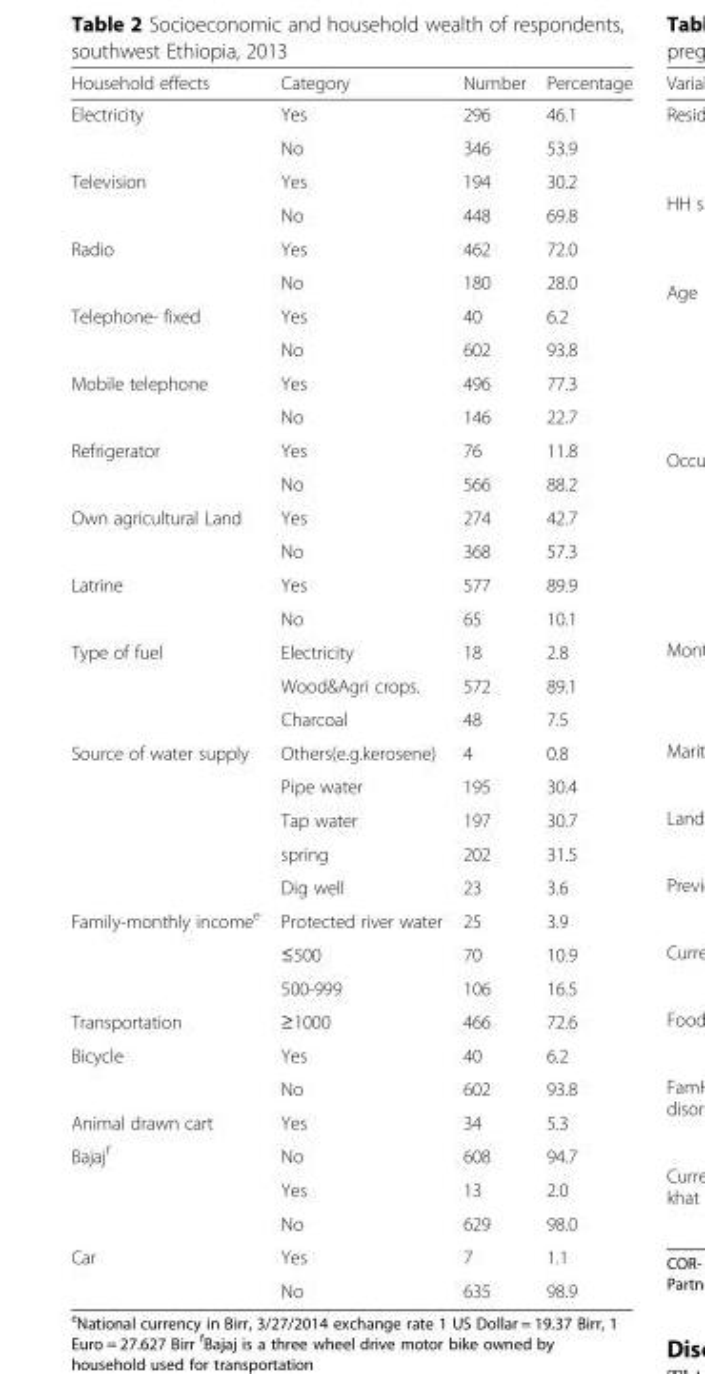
<table><thead><tr><td>Household effects</td><td>Category</td><td>Number</td><td>Percentage</td></tr></thead><tbody><tr><td rowspan="2">Electricity</td><td>Yes</td><td>296</td><td>46.1</td></tr><tr><td>No</td><td>346</td><td>53.9</td></tr><tr><td rowspan="2">Television</td><td>Yes</td><td>194</td><td>30.2</td></tr><tr><td>No</td><td>448</td><td>69.8</td></tr><tr><td rowspan="2">Radio</td><td>Yes</td><td>462</td><td>72.0</td></tr><tr><td>No</td><td>180</td><td>28.0</td></tr><tr><td rowspan="2">Telephone- fixed</td><td>Yes</td><td>40</td><td>6.2</td></tr><tr><td>No</td><td>602</td><td>93.8</td></tr><tr><td rowspan="2">Mobile telephone</td><td>Yes</td><td>496</td><td>77.3</td></tr><tr><td>No</td><td>146</td><td>22.7</td></tr><tr><td rowspan="2">Refrigerator</td><td>Yes</td><td>76</td><td>11.8</td></tr><tr><td>No</td><td>566</td><td>88.2</td></tr><tr><td rowspan="2">Own agricultural Land</td><td>Yes</td><td>274</td><td>42.7</td></tr><tr><td>No</td><td>368</td><td>57.3</td></tr><tr><td rowspan="2">Latrine</td><td>Yes</td><td>577</td><td>89.9</td></tr><tr><td>No</td><td>65</td><td>10.1</td></tr><tr><td rowspan="3">Type of fuel</td><td>Electricity</td><td>18</td><td>2.8</td></tr><tr><td>Wood&amp;Agri crops.</td><td>572</td><td>89.1</td></tr><tr><td>Charcoal</td><td>48</td><td>7.5</td></tr><tr><td rowspan="5">Source of water supply</td><td>Others(e.g.kerosene)</td><td>4</td><td>0.8</td></tr><tr><td>Pipe water</td><td>195</td><td>30.4</td></tr><tr><td>Tap water</td><td>197</td><td>30.7</td></tr><tr><td>spring</td><td>202</td><td>31.5</td></tr><tr><td>Dig well</td><td>23</td><td>3.6</td></tr><tr><td rowspan="3">Family-monthly income<sup>e</sup></td><td>Protected river water</td><td>25</td><td>3.9</td></tr><tr><td>≤500</td><td>70</td><td>10.9</td></tr><tr><td>500-999</td><td>106</td><td>16.5</td></tr><tr><td>Transportation</td><td>≥1000</td><td>466</td><td>72.6</td></tr><tr><td rowspan="2">Bicycle</td><td>Yes</td><td>40</td><td>6.2</td></tr><tr><td>No</td><td>602</td><td>93.8</td></tr><tr><td>Animal drawn cart</td><td>Yes</td><td>34</td><td>5.3</td></tr><tr><td rowspan="3">Bajaj<sup>f</sup></td><td>No</td><td>608</td><td>94.7</td></tr><tr><td>Yes</td><td>13</td><td>2.0</td></tr><tr><td>No</td><td>629</td><td>98.0</td></tr><tr><td rowspan="2">Car</td><td>Yes</td><td>7</td><td>1.1</td></tr><tr><td>No</td><td>635</td><td>98.9</td></tr></tbody></table>